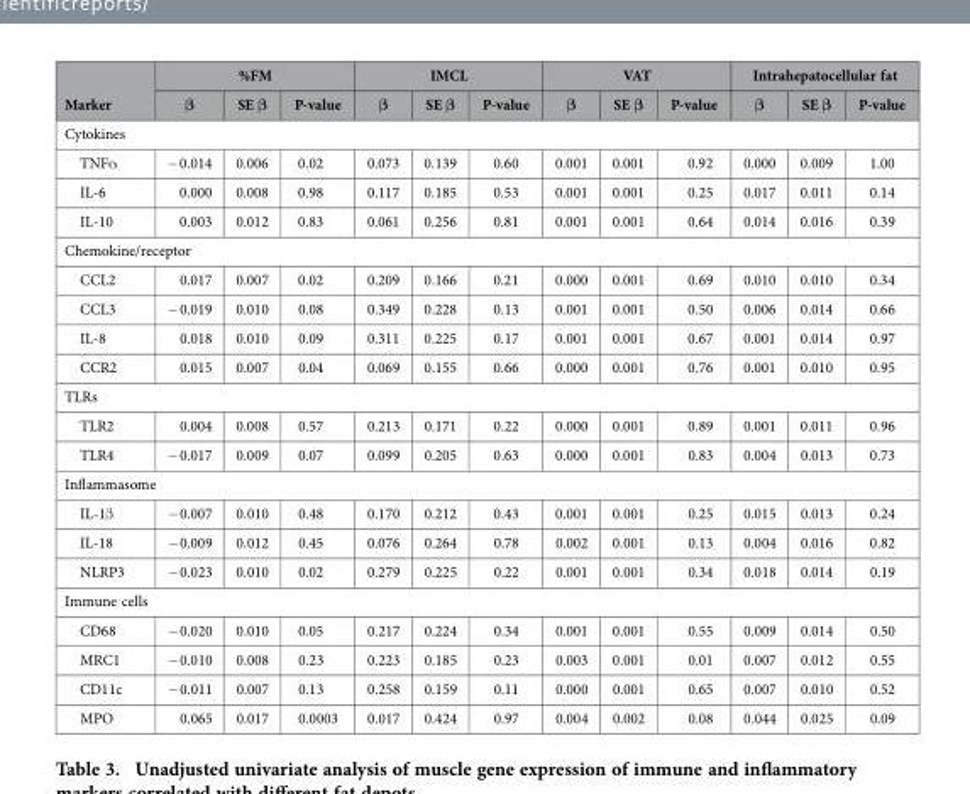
<table><thead><tr><td rowspan="2">Marker</td><td colspan="3">%FM</td><td colspan="3">IMCL</td><td colspan="3">VAT</td><td colspan="3">Intrahepatocellular fat</td></tr><tr><td>β</td><td>SE β</td><td>P-value</td><td>β</td><td>SE β</td><td>P-value</td><td>β</td><td>SE β</td><td>P-value</td><td>β</td><td>SE β</td><td>P-value</td></tr></thead><tbody><tr><td colspan="13">Cytokines</td></tr><tr><td>TNFα</td><td>− 0.014</td><td>0.006</td><td>0.02</td><td>0.073</td><td>0.139</td><td>0.60</td><td>0.001</td><td>0.001</td><td>0.92</td><td>0.000</td><td>0.009</td><td>1.00</td></tr><tr><td>IL-6</td><td>0.000</td><td>0.008</td><td>0.98</td><td>0.117</td><td>0.185</td><td>0.53</td><td>0.001</td><td>0.001</td><td>0.25</td><td>0.017</td><td>0.011</td><td>0.14</td></tr><tr><td>IL-10</td><td>0.003</td><td>0.012</td><td>0.83</td><td>0.061</td><td>0.256</td><td>0.81</td><td>0.001</td><td>0.001</td><td>0.64</td><td>0.014</td><td>0.016</td><td>0.39</td></tr><tr><td colspan="13">Chemokine/receptor</td></tr><tr><td>CCL2</td><td>0.017</td><td>0.007</td><td>0.02</td><td>0.209</td><td>0.166</td><td>0.21</td><td>0.000</td><td>0.001</td><td>0.69</td><td>0.010</td><td>0.010</td><td>0.34</td></tr><tr><td>CCL3</td><td>− 0.019</td><td>0.010</td><td>0.08</td><td>0.349</td><td>0.228</td><td>0.13</td><td>0.001</td><td>0.001</td><td>0.50</td><td>0.006</td><td>0.014</td><td>0.66</td></tr><tr><td>IL-8</td><td>0.018</td><td>0.010</td><td>0.09</td><td>0.311</td><td>0.225</td><td>0.17</td><td>0.001</td><td>0.001</td><td>0.67</td><td>0.001</td><td>0.014</td><td>0.97</td></tr><tr><td>CCR2</td><td>0.015</td><td>0.007</td><td>0.04</td><td>0.069</td><td>0.155</td><td>0.66</td><td>0.000</td><td>0.001</td><td>0.76</td><td>0.001</td><td>0.010</td><td>0.95</td></tr><tr><td colspan="13">TLRs</td></tr><tr><td>TLR2</td><td>0.004</td><td>0.008</td><td>0.57</td><td>0.213</td><td>0.171</td><td>0.22</td><td>0.000</td><td>0.001</td><td>0.89</td><td>0.001</td><td>0.011</td><td>0.96</td></tr><tr><td>TLR4</td><td>− 0.017</td><td>0.009</td><td>0.07</td><td>0.099</td><td>0.205</td><td>0.63</td><td>0.000</td><td>0.001</td><td>0.83</td><td>0.004</td><td>0.013</td><td>0.73</td></tr><tr><td colspan="13">Inflammasome</td></tr><tr><td>IL-1β</td><td>− 0.007</td><td>0.010</td><td>0.48</td><td>0.170</td><td>0.212</td><td>0.43</td><td>0.001</td><td>0.001</td><td>0.25</td><td>0.015</td><td>0.013</td><td>0.24</td></tr><tr><td>IL-18</td><td>− 0.009</td><td>0.012</td><td>0.45</td><td>0.076</td><td>0.264</td><td>0.78</td><td>0.002</td><td>0.001</td><td>0.13</td><td>0.004</td><td>0.016</td><td>0.82</td></tr><tr><td>NLRP3</td><td>− 0.023</td><td>0.010</td><td>0.02</td><td>0.279</td><td>0.225</td><td>0.22</td><td>0.001</td><td>0.001</td><td>0.34</td><td>0.018</td><td>0.014</td><td>0.19</td></tr><tr><td colspan="13">Immune cells</td></tr><tr><td>CD68</td><td>− 0.020</td><td>0.010</td><td>0.05</td><td>0.217</td><td>0.224</td><td>0.34</td><td>0.001</td><td>0.001</td><td>0.55</td><td>0.009</td><td>0.014</td><td>0.50</td></tr><tr><td>MRC1</td><td>− 0.010</td><td>0.008</td><td>0.23</td><td>0.223</td><td>0.185</td><td>0.23</td><td>0.003</td><td>0.001</td><td>0.01</td><td>0.007</td><td>0.012</td><td>0.55</td></tr><tr><td>CD11c</td><td>− 0.011</td><td>0.007</td><td>0.13</td><td>0.258</td><td>0.159</td><td>0.11</td><td>0.000</td><td>0.001</td><td>0.65</td><td>0.007</td><td>0.010</td><td>0.52</td></tr><tr><td>MPO</td><td>0.065</td><td>0.017</td><td>0.0003</td><td>0.017</td><td>0.424</td><td>0.97</td><td>0.004</td><td>0.002</td><td>0.08</td><td>0.044</td><td>0.025</td><td>0.09</td></tr></tbody></table>